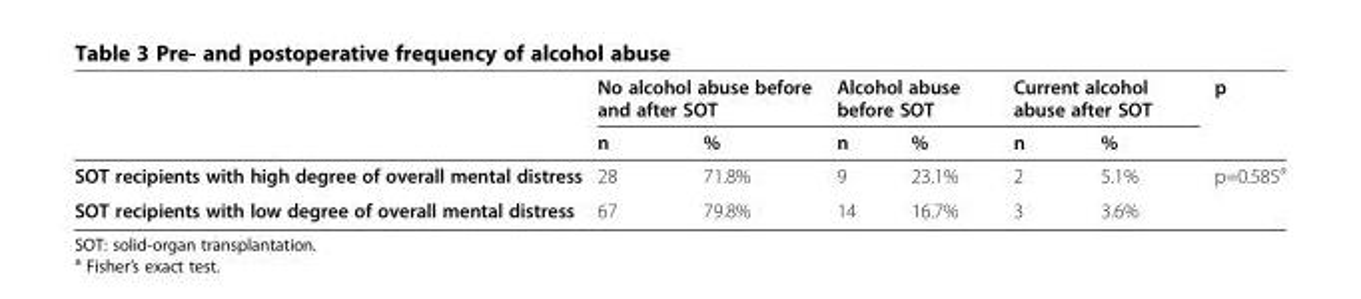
<table><thead><tr><td rowspan="2"></td><td colspan="2">No alcohol abuse before and after SOT</td><td colspan="2">Alcohol abuse before SOT</td><td colspan="2">Current alcohol abuse after SOT</td><td rowspan="2">p</td></tr><tr><td>n</td><td>%</td><td>n</td><td>%</td><td>n</td><td>%</td></tr></thead><tbody><tr><td>SOT recipients with high degree of overall mental distress</td><td>28</td><td>71.8%</td><td>9</td><td>23.1%</td><td>2</td><td>5.1%</td><td>p=0.585<sup>a</sup></td></tr><tr><td>SOT recipients with low degree of overall mental distress</td><td>67</td><td>79.8%</td><td>14</td><td>16.7%</td><td>3</td><td>3.6%</td><td></td></tr></tbody></table>